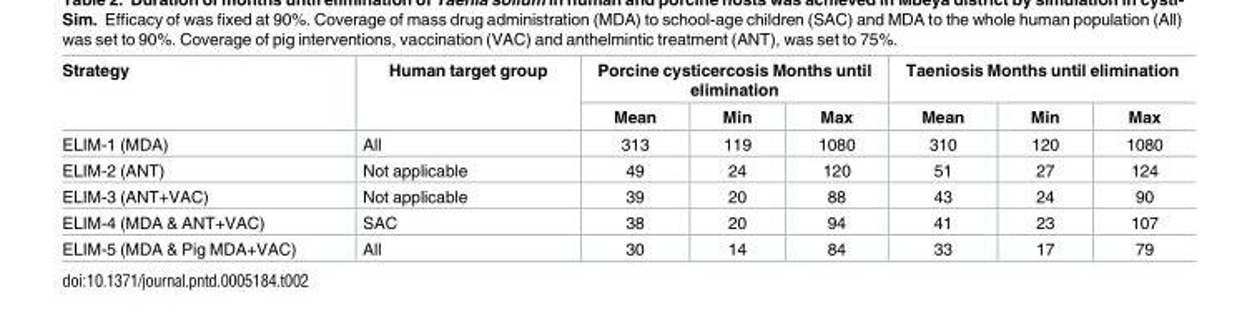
<table><thead><tr><td rowspan="2">Strategy</td><td rowspan="2">Human target group</td><td colspan="3">Porcine cysticercosis Months until elimination</td><td colspan="3">Taeniosis Months until elimination</td></tr><tr><td>Mean</td><td>Min</td><td>Max</td><td>Mean</td><td>Min</td><td>Max</td></tr></thead><tbody><tr><td>ELIM-1 (MDA)</td><td>All</td><td>313</td><td>119</td><td>1080</td><td>310</td><td>120</td><td>1080</td></tr><tr><td>ELIM-2 (ANT)</td><td>Not applicable</td><td>49</td><td>24</td><td>120</td><td>51</td><td>27</td><td>124</td></tr><tr><td>ELIM-3 (ANT+VAC)</td><td>Not applicable</td><td>39</td><td>20</td><td>88</td><td>43</td><td>24</td><td>90</td></tr><tr><td>ELIM-4 (MDA &amp; ANT+VAC)</td><td>SAC</td><td>38</td><td>20</td><td>94</td><td>41</td><td>23</td><td>107</td></tr><tr><td>ELIM-5 (MDA &amp; Pig MDA+VAC)</td><td>All</td><td>30</td><td>14</td><td>84</td><td>33</td><td>17</td><td>79</td></tr></tbody></table>